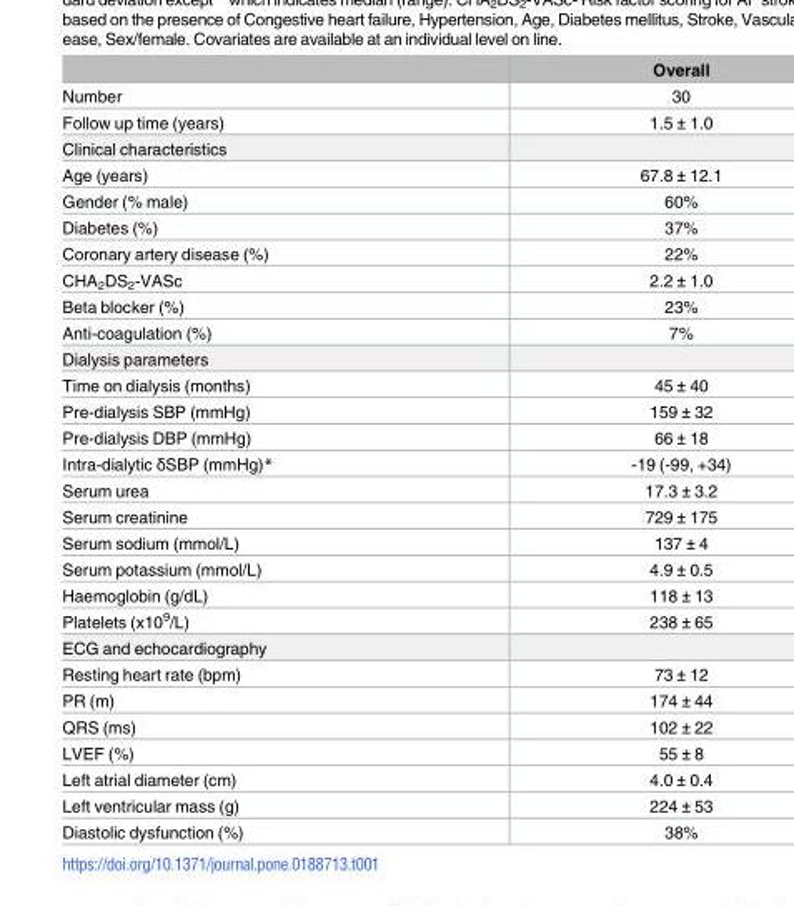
<table><thead><tr><td></td><td>Overall</td></tr></thead><tbody><tr><td>Number</td><td>30</td></tr><tr><td>Follow up time (years)</td><td>1.5 ± 1.0</td></tr><tr><td colspan="2">Clinical characteristics</td></tr><tr><td>Age (years)</td><td>67.8 ± 12.1</td></tr><tr><td>Gender (% male)</td><td>60%</td></tr><tr><td>Diabetes (%)</td><td>37%</td></tr><tr><td>Coronary artery disease (%)</td><td>22%</td></tr><tr><td>CHA<sub>2</sub>DS<sub>2</sub>-VASc</td><td>2.2 ± 1.0</td></tr><tr><td>Beta blocker (%)</td><td>23%</td></tr><tr><td>Anti-coagulation (%)</td><td>7%</td></tr><tr><td colspan="2">Dialysis parameters</td></tr><tr><td>Time on dialysis (months)</td><td>45 ± 40</td></tr><tr><td>Pre-dialysis SBP (mmHg)</td><td>159 ± 32</td></tr><tr><td>Pre-dialysis DBP (mmHg)</td><td>66 ± 18</td></tr><tr><td>Intra-dialytic δSBP (mmHg)*</td><td>-19 (-99, +34)</td></tr><tr><td>Serum urea</td><td>17.3 ± 3.2</td></tr><tr><td>Serum creatinine</td><td>729 ± 175</td></tr><tr><td>Serum sodium (mmol/L)</td><td>137 ± 4</td></tr><tr><td>Serum potassium (mmol/L)</td><td>4.9 ± 0.5</td></tr><tr><td>Haemoglobin (g/dL)</td><td>118 ± 13</td></tr><tr><td>Platelets (x10<sup>9</sup>/L)</td><td>238 ± 65</td></tr><tr><td colspan="2">ECG and echocardiography</td></tr><tr><td>Resting heart rate (bpm)</td><td>73 ± 12</td></tr><tr><td>PR (m)</td><td>174 ± 44</td></tr><tr><td>QRS (ms)</td><td>102 ± 22</td></tr><tr><td>LVEF (%)</td><td>55 ± 8</td></tr><tr><td>Left atrial diameter (cm)</td><td>4.0 ± 0.4</td></tr><tr><td>Left ventricular mass (g)</td><td>224 ± 53</td></tr><tr><td>Diastolic dysfunction (%)</td><td>38%</td></tr></tbody></table>